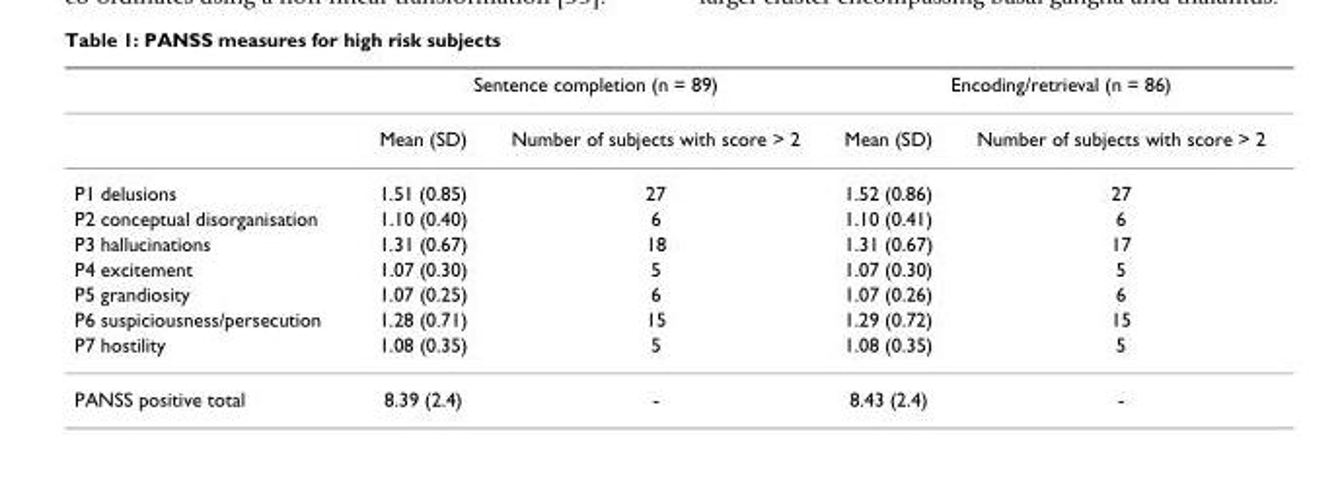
<table><thead><tr><td rowspan="2"></td><td colspan="2">Sentence completion (n = 89)</td><td colspan="2">Encoding/retrieval (n = 86)</td></tr><tr><td>Mean (SD)</td><td>Number of subjects with score &gt; 2</td><td>Mean (SD)</td><td>Number of subjects with score &gt; 2</td></tr></thead><tbody><tr><td>P1 delusions</td><td>1.51 (0.85)</td><td>27</td><td>1.52 (0.86)</td><td>27</td></tr><tr><td>P2 conceptual disorganisation</td><td>1.10 (0.40)</td><td>6</td><td>1.10 (0.41)</td><td>6</td></tr><tr><td>P3 hallucinations</td><td>1.31 (0.67)</td><td>18</td><td>1.31 (0.67)</td><td>17</td></tr><tr><td>P4 excitement</td><td>1.07 (0.30)</td><td>5</td><td>1.07 (0.30)</td><td>5</td></tr><tr><td>P5 grandiosity</td><td>1.07 (0.25)</td><td>6</td><td>1.07 (0.26)</td><td>6</td></tr><tr><td>P6 suspiciousness/persecution</td><td>1.28 (0.71)</td><td>15</td><td>1.29 (0.72)</td><td>15</td></tr><tr><td>P7 hostility</td><td>1.08 (0.35)</td><td>5</td><td>1.08 (0.35)</td><td>5</td></tr><tr><td>PANSS positive total</td><td>8.39 (2.4)</td><td>-</td><td>8.43 (2.4)</td><td>-</td></tr></tbody></table>